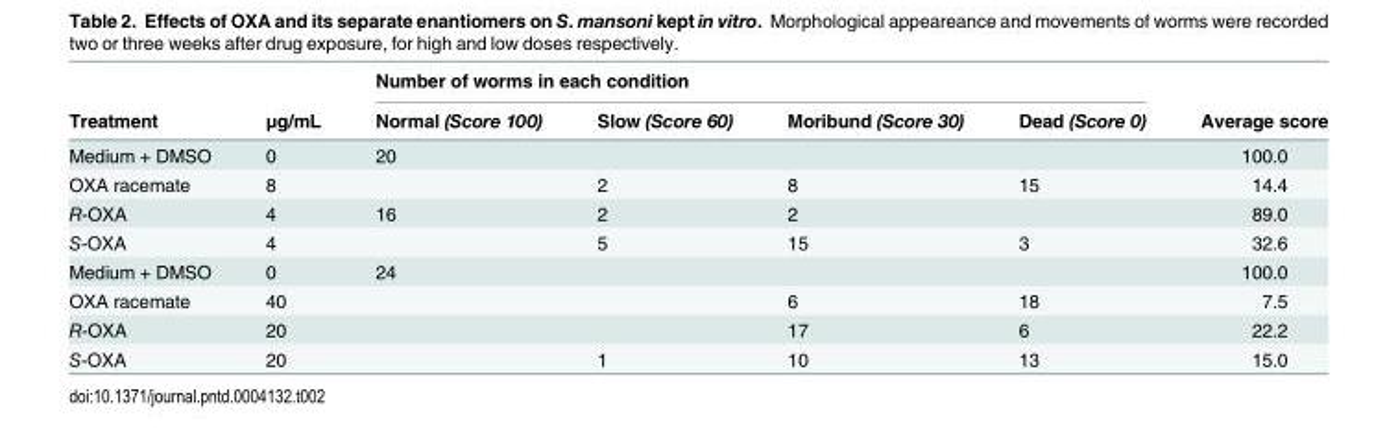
<table><thead><tr><td rowspan="2">Treatment</td><td rowspan="2">μg/mL</td><td colspan="4">Number of worms in each condition</td><td rowspan="2">Average score</td></tr><tr><td>Normal (Score 100)</td><td>Slow (Score 60)</td><td>Moribund (Score 30)</td><td>Dead (Score 0)</td></tr></thead><tbody><tr><td>Medium + DMSO</td><td>0</td><td>20</td><td></td><td></td><td></td><td>100.0</td></tr><tr><td>OXA racemate</td><td>8</td><td></td><td>2</td><td>8</td><td>15</td><td>14.4</td></tr><tr><td>R-OXA</td><td>4</td><td>16</td><td>2</td><td>2</td><td></td><td>89.0</td></tr><tr><td>S-OXA</td><td>4</td><td></td><td>5</td><td>15</td><td>3</td><td>32.6</td></tr><tr><td>Medium + DMSO</td><td>0</td><td>24</td><td></td><td></td><td></td><td>100.0</td></tr><tr><td>OXA racemate</td><td>40</td><td></td><td></td><td>6</td><td>18</td><td>7.5</td></tr><tr><td>R-OXA</td><td>20</td><td></td><td></td><td>17</td><td>6</td><td>22.2</td></tr><tr><td>S-OXA</td><td>20</td><td></td><td>1</td><td>10</td><td>13</td><td>15.0</td></tr></tbody></table>